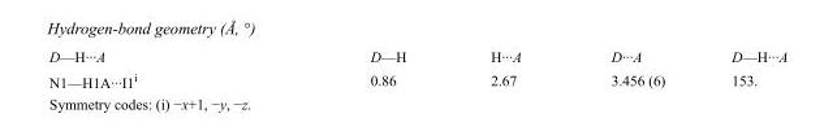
<table><tbody><tr><td>D—H···A</td><td>D—H</td><td>H···A</td><td>D···A</td><td>D—H···A</td></tr><tr><td>N1—H1A···I1<sup>i</sup></td><td>0.86</td><td>2.67</td><td>3.456 (6)</td><td>153.</td></tr></tbody></table>